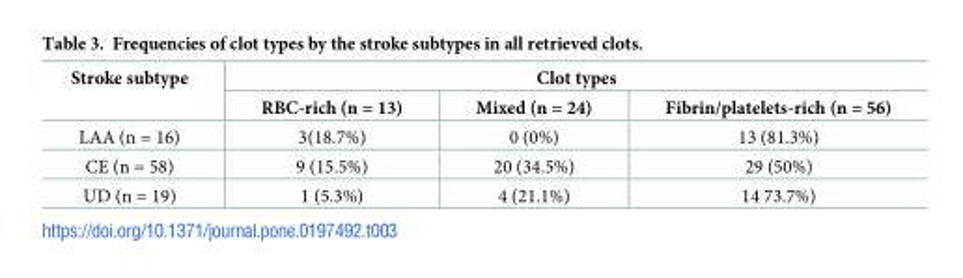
<table><thead><tr><td rowspan="2">Stroke subtype</td><td colspan="3">Clot types</td></tr><tr><td>RBC-rich (n = 13)</td><td>Mixed (n = 24)</td><td>Fibrin/platelets-rich (n = 56)</td></tr></thead><tbody><tr><td>LAA (n = 16)</td><td>3(18.7%)</td><td>0 (0%)</td><td>13 (81.3%)</td></tr><tr><td>CE (n = 58)</td><td>9 (15.5%)</td><td>20 (34.5%)</td><td>29 (50%)</td></tr><tr><td>UD (n = 19)</td><td>1 (5.3%)</td><td>4 (21.1%)</td><td>14 73.7%)</td></tr></tbody></table>